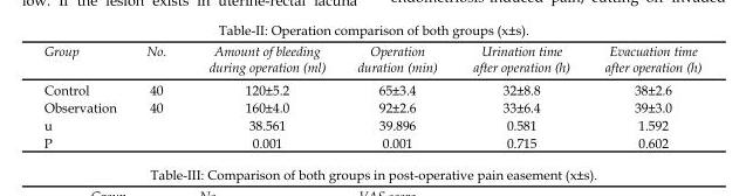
<table><thead><tr><td>Group</td><td>No.</td><td>Amount of bleeding during operation (ml)</td><td>Operation duration (min)</td><td>Urination time after operation (h)</td><td>Evacuation time after operation (h)</td></tr></thead><tbody><tr><td>Control</td><td>40</td><td>120±5.2</td><td>65±3.4</td><td>32±8.8</td><td>38±2.6</td></tr><tr><td>Observation</td><td>40</td><td>160±4.0</td><td>92±2.6</td><td>33±6.4</td><td>39±3.0</td></tr><tr><td>u</td><td></td><td>38.561</td><td>39.896</td><td>0.581</td><td>1.592</td></tr><tr><td>P</td><td></td><td>0.001</td><td>0.001</td><td>0.715</td><td>0.602</td></tr></tbody></table>